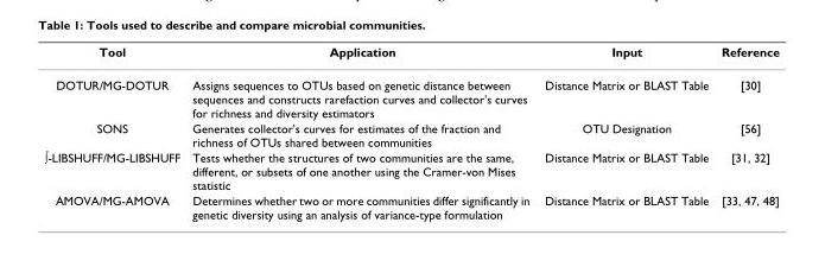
<table><thead><tr><td>Tool</td><td>Application</td><td>Input</td><td>Reference</td></tr></thead><tbody><tr><td>DOTUR/MG-DOTUR</td><td>Assigns sequences to OTUs based on genetic distance between sequences and constructs rarefaction curves and collector&#x27;s curves for richness and diversity estimators</td><td>Distance Matrix or BLAST Table</td><td>[30]</td></tr><tr><td>SONS</td><td>Generates collector&#x27;s curves for estimates of the fraction and richness of OTUs shared between communities</td><td>OTU Designation</td><td>[56]</td></tr><tr><td>∫-LIBSHUFF/MG-LIBSHUFF</td><td>Tests whether the structures of two communities are the same, different, or subsets of one another using the Cramer-von Mises statistic</td><td>Distance Matrix or BLAST Table</td><td>[31, 32]</td></tr><tr><td>AMOVA/MG-AMOVA</td><td>Determines whether two or more communities differ significantly in genetic diversity using an analysis of variance-type formulation</td><td>Distance Matrix or BLAST Table</td><td>[33, 47, 48]</td></tr></tbody></table>